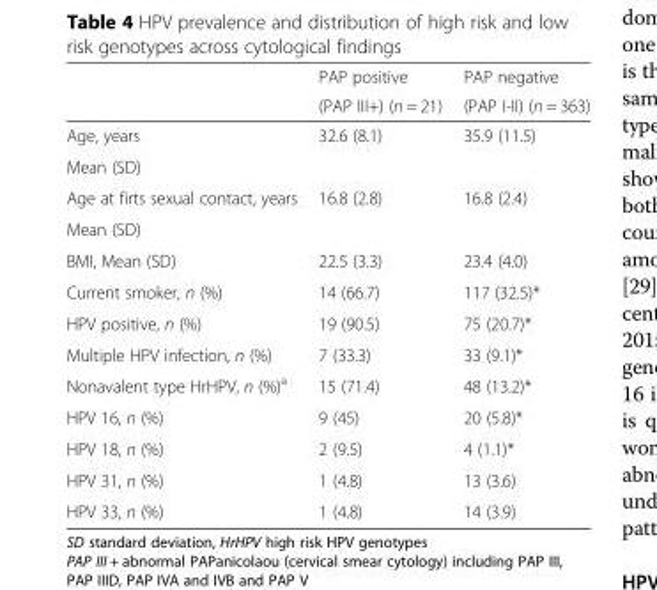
<table><thead><tr><td rowspan="2"></td><td rowspan="2">PAP positive (PAP III+) (n = 21)</td><td rowspan="2">PAP negative (PAP I-II) (n = 363)</td></tr><tr></tr></thead><tbody><tr><td>Age, years</td><td>32.6 (8.1)</td><td>35.9 (11.5)</td></tr><tr><td colspan="3">Mean (SD)</td></tr><tr><td>Age at firts sexual contact, years</td><td>16.8 (2.8)</td><td>16.8 (2.4)</td></tr><tr><td colspan="3">Mean (SD)</td></tr><tr><td>BMI, Mean (SD)</td><td>22.5 (3.3)</td><td>23.4 (4.0)</td></tr><tr><td>Current smoker, n (%)</td><td>14 (66.7)</td><td>117 (32.5)*</td></tr><tr><td>HPV positive, n (%)</td><td>19 (90.5)</td><td>75 (20.7)*</td></tr><tr><td>Multiple HPV infection, n (%)</td><td>7 (33.3)</td><td>33 (9.1)*</td></tr><tr><td>Nonavalent type HrHPV, n (%)<sup>a</sup></td><td>15 (71.4)</td><td>48 (13.2)*</td></tr><tr><td>HPV 16, n (%)</td><td>9 (45)</td><td>20 (5.8)*</td></tr><tr><td>HPV 18, n (%)</td><td>2 (9.5)</td><td>4 (1.1)*</td></tr><tr><td>HPV 31, n (%)</td><td>1 (4.8)</td><td>13 (3.6)</td></tr><tr><td>HPV 33, n (%)</td><td>1 (4.8)</td><td>14 (3.9)</td></tr></tbody></table>